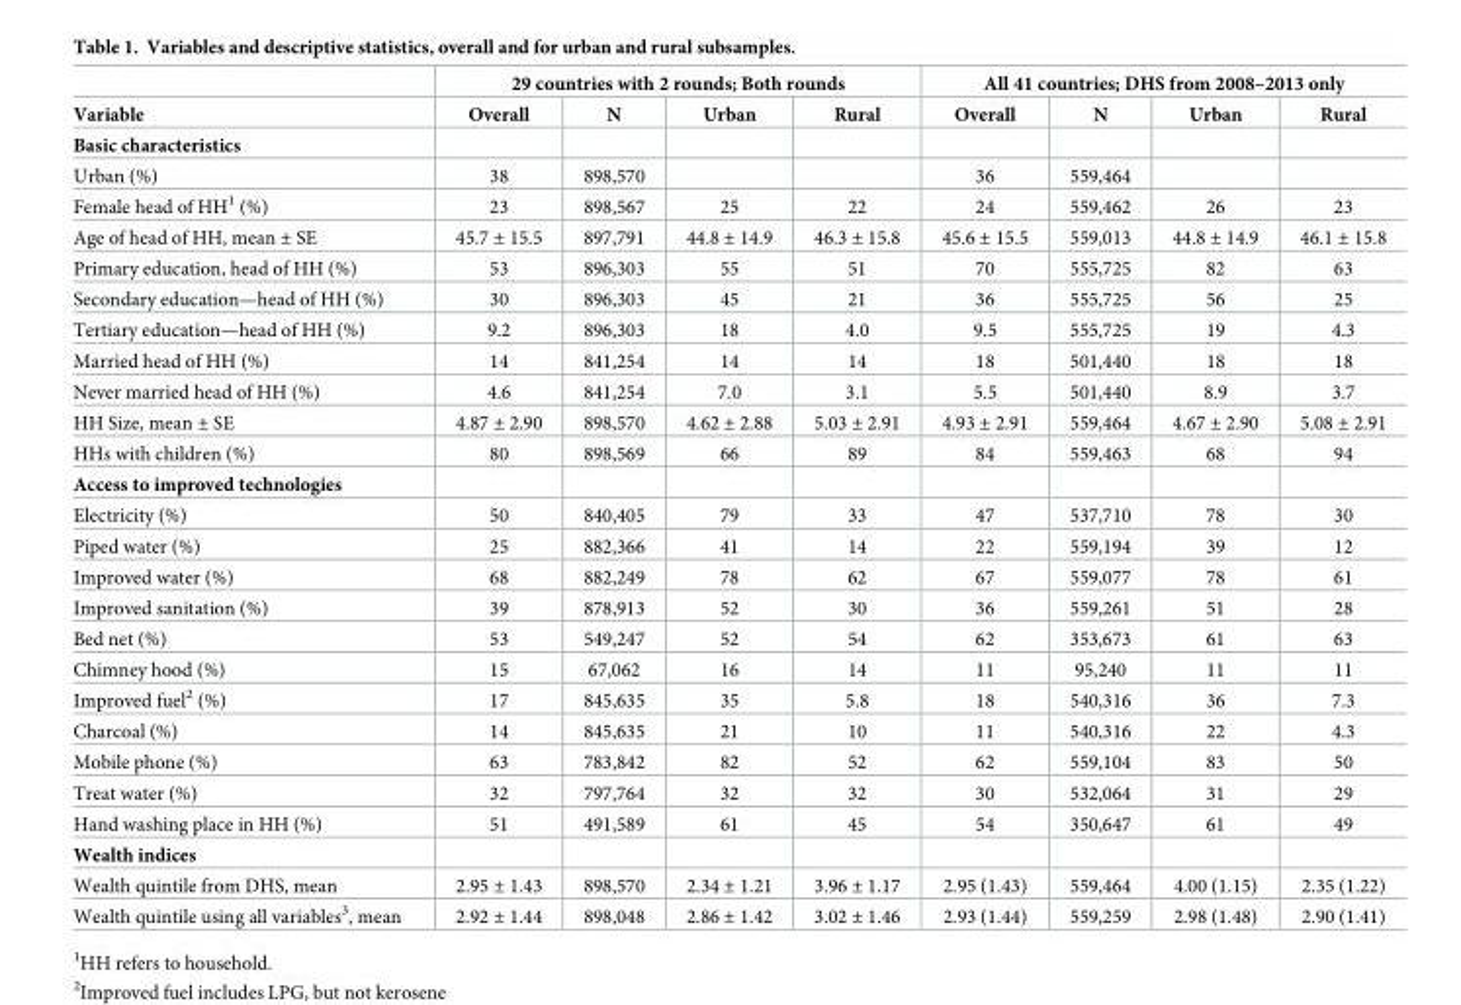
<table><thead><tr><td rowspan="2">Variable</td><td colspan="4">29 countries with 2 rounds; Both rounds</td><td colspan="4">All 41 countries; DHS from 2008–2013 only</td></tr><tr><td>Overall</td><td>N</td><td>Urban</td><td>Rural</td><td>Overall</td><td>N</td><td>Urban</td><td>Rural</td></tr></thead><tbody><tr><td colspan="9">Basic characteristics</td></tr><tr><td>Urban (%)</td><td>38</td><td>898,570</td><td></td><td></td><td>36</td><td>559,464</td><td></td><td></td></tr><tr><td>Female head of HH<sup>1</sup> (%)</td><td>23</td><td>898,567</td><td>25</td><td>22</td><td>24</td><td>559,462</td><td>26</td><td>23</td></tr><tr><td>Age of head of HH, mean ± SE</td><td>45.7 ± 15.5</td><td>897,791</td><td>44.8 ± 14.9</td><td>46.3 ± 15.8</td><td>45.6 ± 15.5</td><td>559,013</td><td>44.8 ± 14.9</td><td>46.1 ± 15.8</td></tr><tr><td>Primary education, head of HH (%)</td><td>53</td><td>896,303</td><td>55</td><td>51</td><td>70</td><td>555,725</td><td>82</td><td>63</td></tr><tr><td>Secondary education—head of HH (%)</td><td>30</td><td>896,303</td><td>45</td><td>21</td><td>36</td><td>555,725</td><td>56</td><td>25</td></tr><tr><td>Tertiary education—head of HH (%)</td><td>9.2</td><td>896,303</td><td>18</td><td>4.0</td><td>9.5</td><td>555,725</td><td>19</td><td>4.3</td></tr><tr><td>Married head of HH (%)</td><td>14</td><td>841,254</td><td>14</td><td>14</td><td>18</td><td>501,440</td><td>18</td><td>18</td></tr><tr><td>Never married head of HH (%)</td><td>4.6</td><td>841,254</td><td>7.0</td><td>3.1</td><td>5.5</td><td>501,440</td><td>8.9</td><td>3.7</td></tr><tr><td>HH Size, mean ± SE</td><td>4.87 ± 2.90</td><td>898,570</td><td>4.62 ± 2.88</td><td>5.03 ± 2.91</td><td>4.93 ± 2.91</td><td>559,464</td><td>4.67 ± 2.90</td><td>5.08 ± 2.91</td></tr><tr><td>HHs with children (%)</td><td>80</td><td>898,569</td><td>66</td><td>89</td><td>84</td><td>559,463</td><td>68</td><td>94</td></tr><tr><td colspan="9">Access to improved technologies</td></tr><tr><td>Electricity (%)</td><td>50</td><td>840,405</td><td>79</td><td>33</td><td>47</td><td>537,710</td><td>78</td><td>30</td></tr><tr><td>Piped water (%)</td><td>25</td><td>882,366</td><td>41</td><td>14</td><td>22</td><td>559,194</td><td>39</td><td>12</td></tr><tr><td>Improved water (%)</td><td>68</td><td>882,249</td><td>78</td><td>62</td><td>67</td><td>559,077</td><td>78</td><td>61</td></tr><tr><td>Improved sanitation (%)</td><td>39</td><td>878,913</td><td>52</td><td>30</td><td>36</td><td>559,261</td><td>51</td><td>28</td></tr><tr><td>Bed net (%)</td><td>53</td><td>549,247</td><td>52</td><td>54</td><td>62</td><td>353,673</td><td>61</td><td>63</td></tr><tr><td>Chimney hood (%)</td><td>15</td><td>67,062</td><td>16</td><td>14</td><td>11</td><td>95,240</td><td>11</td><td>11</td></tr><tr><td>Improved fuel<sup>2</sup> (%)</td><td>17</td><td>845,635</td><td>35</td><td>5.8</td><td>18</td><td>540,316</td><td>36</td><td>7.3</td></tr><tr><td>Charcoal (%)</td><td>14</td><td>845,635</td><td>21</td><td>10</td><td>11</td><td>540,316</td><td>22</td><td>4.3</td></tr><tr><td>Mobile phone (%)</td><td>63</td><td>783,842</td><td>82</td><td>52</td><td>62</td><td>559,104</td><td>83</td><td>50</td></tr><tr><td>Treat water (%)</td><td>32</td><td>797,764</td><td>32</td><td>32</td><td>30</td><td>532,064</td><td>31</td><td>29</td></tr><tr><td>Hand washing place in HH (%)</td><td>51</td><td>491,589</td><td>61</td><td>45</td><td>54</td><td>350,647</td><td>61</td><td>49</td></tr><tr><td colspan="9">Wealth indices</td></tr><tr><td>Wealth quintile from DHS, mean</td><td>2.95 ± 1.43</td><td>898,570</td><td>2.34 ± 1.21</td><td>3.96 ± 1.17</td><td>2.95 (1.43)</td><td>559,464</td><td>4.00 (1.15)</td><td>2.35 (1.22)</td></tr><tr><td>Wealth quintile using all variables<sup>3</sup>, mean</td><td>2.92 ± 1.44</td><td>898,048</td><td>2.86 ± 1.42</td><td>3.02 ± 1.46</td><td>2.93 (1.44)</td><td>559,259</td><td>2.98 (1.48)</td><td>2.90 (1.41)</td></tr></tbody></table>